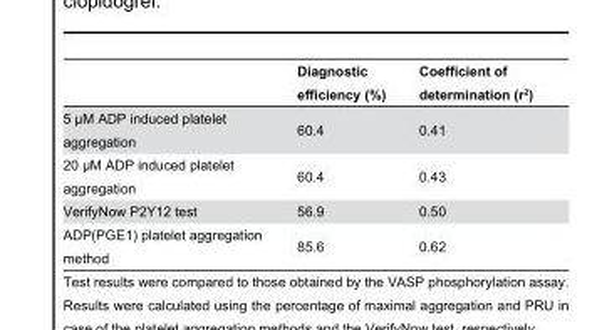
<table><thead><tr><td></td><td>Diagnostic efficiency (%)</td><td>Coefficient of determination (r<sup>2</sup>)</td></tr></thead><tbody><tr><td>5 µM ADP induced platelet aggregation</td><td>60.4</td><td>0.41</td></tr><tr><td>20 µM ADP induced platelet aggregation</td><td>60.4</td><td>0.43</td></tr><tr><td>VerifyNow P2Y12 test</td><td>56.9</td><td>0.50</td></tr><tr><td>ADP(PGE1) platelet aggregation method</td><td>85.6</td><td>0.62</td></tr></tbody></table>